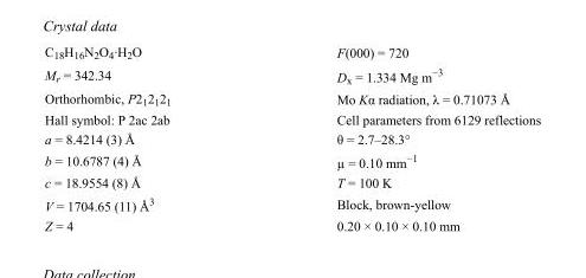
<table><tbody><tr><td>C<sub>18</sub>H<sub>16</sub>N<sub>2</sub>O<sub>4</sub>·H<sub>2</sub>O</td><td>F(000) = 720</td></tr><tr><td>M<sub>r</sub> = 342.34</td><td>D<sub>x</sub> = 1.334 Mg m<sup>−3</sup></td></tr><tr><td>Orthorhombic, P2<sub>1</sub>2<sub>1</sub>2<sub>1</sub></td><td>Mo Kα radiation, λ = 0.71073 Å</td></tr><tr><td>Hall symbol: P 2ac 2ab</td><td>Cell parameters from 6129 reflections</td></tr><tr><td>a = 8.4214 (3) Å</td><td>θ = 2.7–28.3°</td></tr><tr><td>b = 10.6787 (4) Å</td><td>µ = 0.10 mm<sup>−1</sup></td></tr><tr><td>c = 18.9554 (8) Å</td><td>T = 100 K</td></tr><tr><td>V = 1704.65 (11) Å<sup>3</sup></td><td>Block, brown-yellow</td></tr><tr><td>Z = 4</td><td>0.20 × 0.10 × 0.10 mm</td></tr></tbody></table>